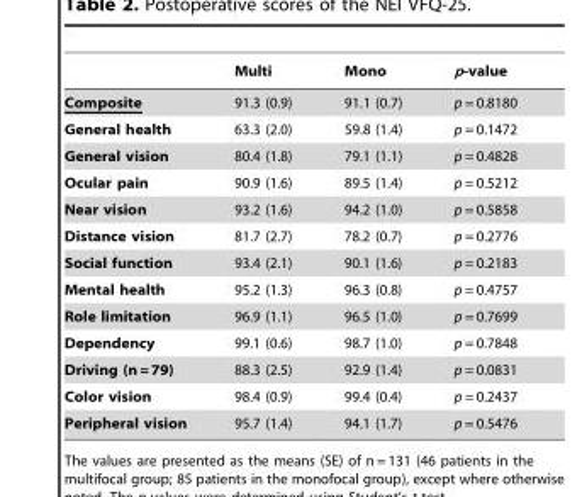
<table><thead><tr><td></td><td>Multi</td><td>Mono</td><td>p-value</td></tr></thead><tbody><tr><td>Composite</td><td>91.3 (0.9)</td><td>91.1 (0.7)</td><td>p = 0.8180</td></tr><tr><td>General health</td><td>63.3 (2.0)</td><td>59.8 (1.4)</td><td>p = 0.1472</td></tr><tr><td>General vision</td><td>80.4 (1.8)</td><td>79.1 (1.1)</td><td>p = 0.4828</td></tr><tr><td>Ocular pain</td><td>90.9 (1.6)</td><td>89.5 (1.4)</td><td>p = 0.5212</td></tr><tr><td>Near vision</td><td>93.2 (1.6)</td><td>94.2 (1.0)</td><td>p = 0.5858</td></tr><tr><td>Distance vision</td><td>81.7 (2.7)</td><td>78.2 (0.7)</td><td>p = 0.2776</td></tr><tr><td>Social function</td><td>93.4 (2.1)</td><td>90.1 (1.6)</td><td>p = 0.2183</td></tr><tr><td>Mental health</td><td>95.2 (1.3)</td><td>96.3 (0.8)</td><td>p = 0.4757</td></tr><tr><td>Role limitation</td><td>96.9 (1.1)</td><td>96.5 (1.0)</td><td>p = 0.7699</td></tr><tr><td>Dependency</td><td>99.1 (0.6)</td><td>98.7 (1.0)</td><td>p = 0.7848</td></tr><tr><td>Driving (n = 79)</td><td>88.3 (2.5)</td><td>92.9 (1.4)</td><td>p = 0.0831</td></tr><tr><td>Color vision</td><td>98.4 (0.9)</td><td>99.4 (0.4)</td><td>p = 0.2437</td></tr><tr><td>Peripheral vision</td><td>95.7 (1.4)</td><td>94.1 (1.7)</td><td>p = 0.5476</td></tr></tbody></table>